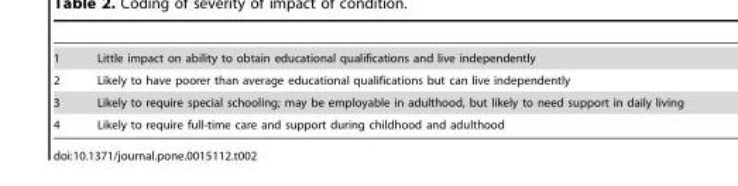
<table><tbody><tr><td>1</td><td>Little impact on ability to obtain educational qualifications and live independently</td></tr><tr><td>2</td><td>Likely to have poorer than average educational qualifications but can live independently</td></tr><tr><td>3</td><td>Likely to require special schooling; may be employable in adulthood, but likely to need support in daily living</td></tr><tr><td>4</td><td>Likely to require full-time care and support during childhood and adulthood</td></tr></tbody></table>